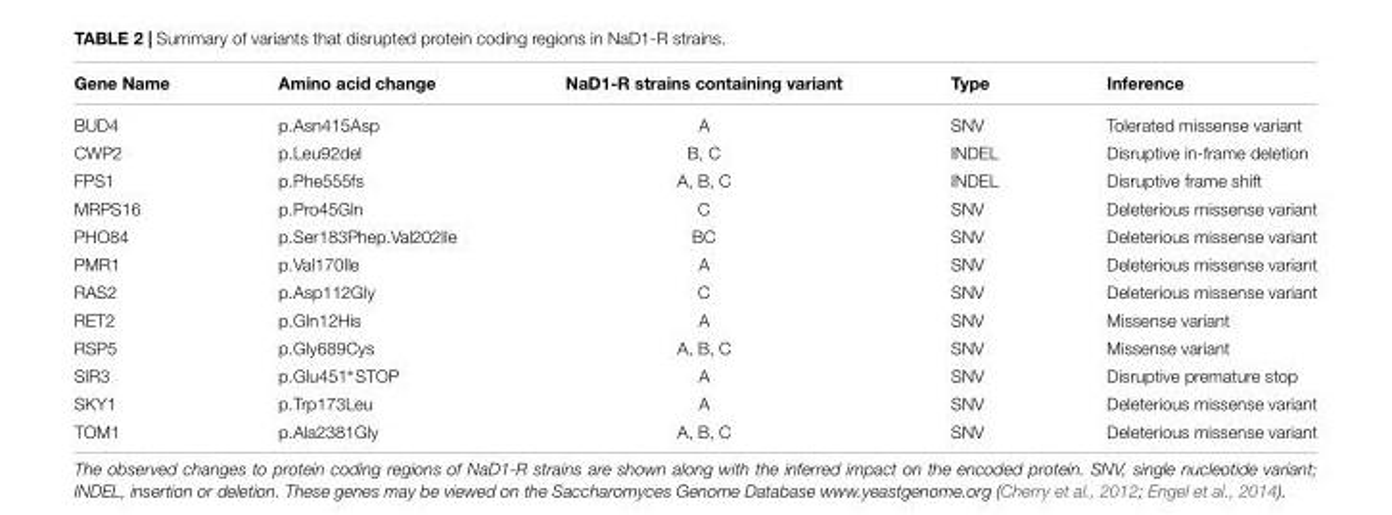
<table><thead><tr><td>Gene Name</td><td>Amino acid change</td><td>NaD1-R strains containing variant</td><td>Type</td><td>Inference</td></tr></thead><tbody><tr><td>BUD4</td><td>p.Asn415Asp</td><td>A</td><td>SNV</td><td>Tolerated missense variant</td></tr><tr><td>CWP2</td><td>p.Leu92del</td><td>B, C</td><td>INDEL</td><td>Disruptive in-frame deletion</td></tr><tr><td>FPS1</td><td>p.Phe555fs</td><td>A, B, C</td><td>INDEL</td><td>Disruptive frame shift</td></tr><tr><td>MRPS16</td><td>p.Pro45Gln</td><td>C</td><td>SNV</td><td>Deleterious missense variant</td></tr><tr><td>PHO84</td><td>p.Ser183Phep.Val202Ile</td><td>BC</td><td>SNV</td><td>Deleterious missense variant</td></tr><tr><td>PMR1</td><td>p.Val170Ile</td><td>A</td><td>SNV</td><td>Deleterious missense variant</td></tr><tr><td>RAS2</td><td>p.Asp112Gly</td><td>C</td><td>SNV</td><td>Deleterious missense variant</td></tr><tr><td>RET2</td><td>p.Gln12His</td><td>A</td><td>SNV</td><td>Missense variant</td></tr><tr><td>RSP5</td><td>p.Gly689Cys</td><td>A, B, C</td><td>SNV</td><td>Missense variant</td></tr><tr><td>SIR3</td><td>p.Glu451∗STOP</td><td>A</td><td>SNV</td><td>Disruptive premature stop</td></tr><tr><td>SKY1</td><td>p.Trp173Leu</td><td>A</td><td>SNV</td><td>Deleterious missense variant</td></tr><tr><td>TOM1</td><td>p.Ala2381Gly</td><td>A, B, C</td><td>SNV</td><td>Deleterious missense variant</td></tr></tbody></table>